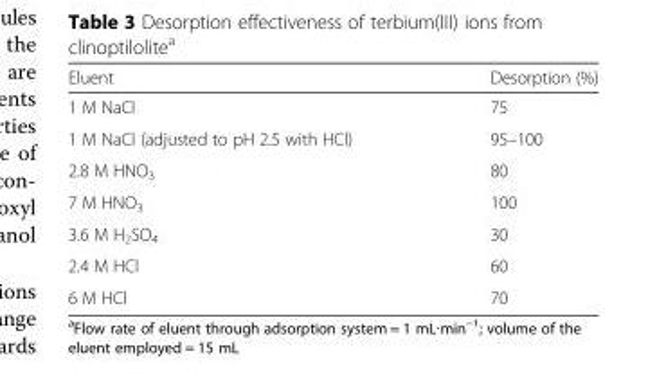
<table><thead><tr><td>Eluent</td><td>Desorption (%)</td></tr></thead><tbody><tr><td>1 M NaCl</td><td>75</td></tr><tr><td>1 M NaCl (adjusted to pH 2.5 with HCl)</td><td>95–100</td></tr><tr><td>2.8 M HNO<sub>3</sub></td><td>80</td></tr><tr><td>7 M HNO<sub>3</sub></td><td>100</td></tr><tr><td>3.6 M H<sub>2</sub>SO<sub>4</sub></td><td>30</td></tr><tr><td>2.4 M HCl</td><td>60</td></tr><tr><td>6 M HCl</td><td>70</td></tr></tbody></table>